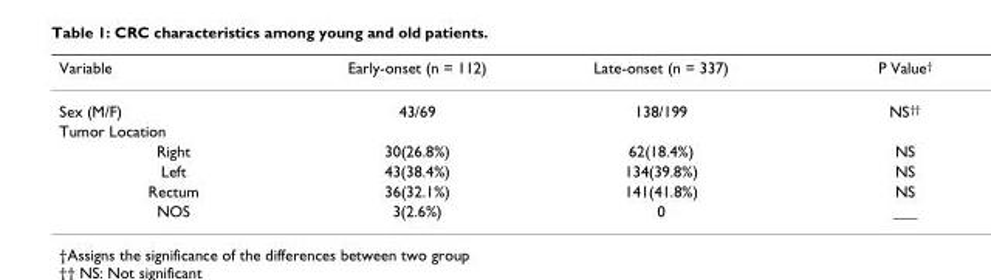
<table><thead><tr><td>Variable</td><td>Early-onset (n = 112)</td><td>Late-onset (n = 337)</td><td>P Value†</td></tr></thead><tbody><tr><td>Sex (M/F)</td><td>43/69</td><td>138/199</td><td>NS††</td></tr><tr><td colspan="4">Tumor Location</td></tr><tr><td>Right</td><td>30(26.8%)</td><td>62(18.4%)</td><td>NS</td></tr><tr><td>Left</td><td>43(38.4%)</td><td>134(39.8%)</td><td>NS</td></tr><tr><td>Rectum</td><td>36(32.1%)</td><td>141(41.8%)</td><td>NS</td></tr><tr><td>NOS</td><td>3(2.6%)</td><td>0</td><td>___</td></tr></tbody></table>